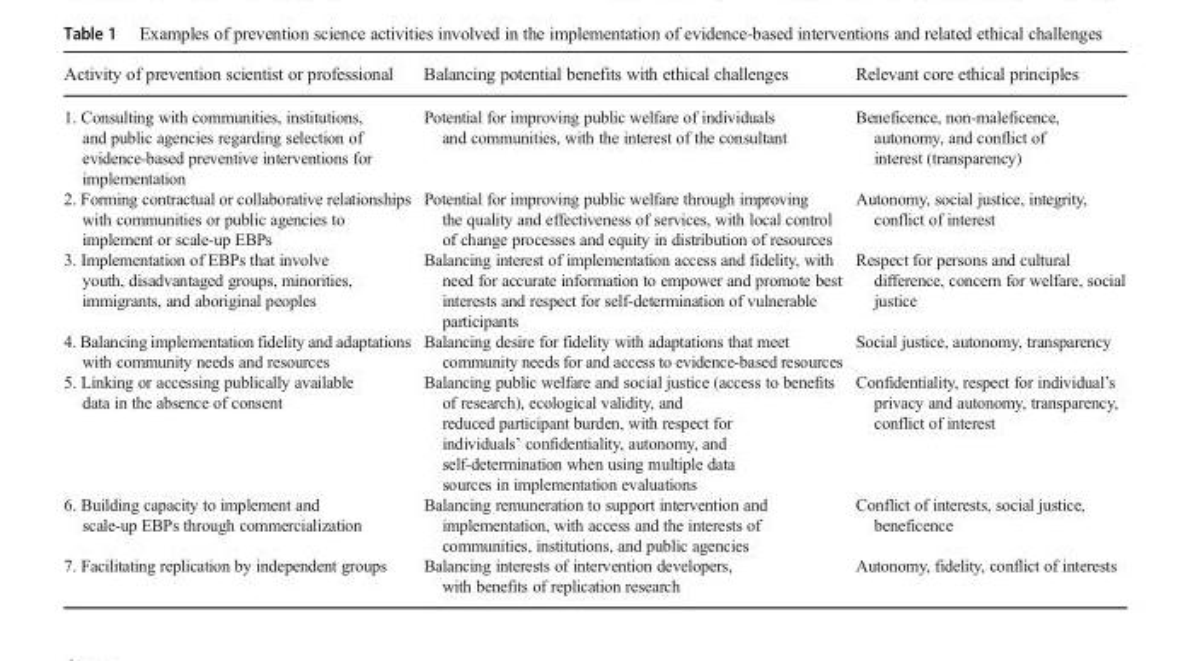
<table><thead><tr><td>Activity of prevention scientist or professional</td><td>Balancing potential benefits with ethical challenges</td><td>Relevant core ethical principles</td></tr></thead><tbody><tr><td>1. Consulting with communities, institutions, and public agencies regarding selection of evidence-based preventive interventions for implementation</td><td>Potential for improving public welfare of individuals and communities, with the interest of the consultant</td><td>Beneficence, non-maleficence, autonomy, and conflict of interest (transparency)</td></tr><tr><td>2. Forming contractual or collaborative relationships with communities or public agencies to implement or scale-up EBPs</td><td>Potential for improving public welfare through improving the quality and effectiveness of services, with local control of change processes and equity in distribution of resources</td><td>Autonomy, social justice, integrity, conflict of interest</td></tr><tr><td>3. Implementation of EBPs that involve youth, disadvantaged groups, minorities, immigrants, and aboriginal peoples</td><td>Balancing interest of implementation access and fidelity, with need for accurate information to empower and promote best interests and respect for self-determination of vulnerable participants</td><td>Respect for persons and cultural difference, concern for welfare, social justice</td></tr><tr><td>4. Balancing implementation fidelity and adaptations with community needs and resources</td><td>Balancing desire for fidelity with adaptations that meet community needs for and access to evidence-based resources</td><td>Social justice, autonomy, transparency</td></tr><tr><td>5. Linking or accessing publically available data in the absence of consent</td><td>Balancing public welfare and social justice (access to benefits of research), ecological validity, and reduced participant burden, with respect for individuals’ confidentiality, autonomy, and self-determination when using multiple data sources in implementation evaluations</td><td>Confidentiality, respect for individual’s privacy and autonomy, transparency, conflict of interest</td></tr><tr><td>6. Building capacity to implement and scale-up EBPs through commercialization</td><td>Balancing remuneration to support intervention and implementation, with access and the interests of communities, institutions, and public agencies</td><td>Conflict of interests, social justice, beneficence</td></tr><tr><td>7. Facilitating replication by independent groups</td><td>Balancing interests of intervention developers, with benefits of replication research</td><td>Autonomy, fidelity, conflict of interests</td></tr></tbody></table>